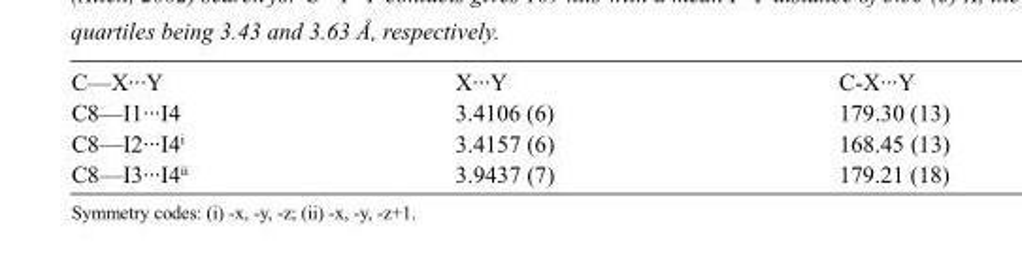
<table><tbody><tr><td>C—X···Y</td><td>X···Y</td><td>C-X···Y</td></tr><tr><td>C8—I1···I4</td><td>3.4106 (6)</td><td>179.30 (13)</td></tr><tr><td>C8—I2···I4<sup>i</sup></td><td>3.4157 (6)</td><td>168.45 (13)</td></tr><tr><td>C8—I3···I4<sup>ii</sup></td><td>3.9437 (7)</td><td>179.21 (18)</td></tr></tbody></table>